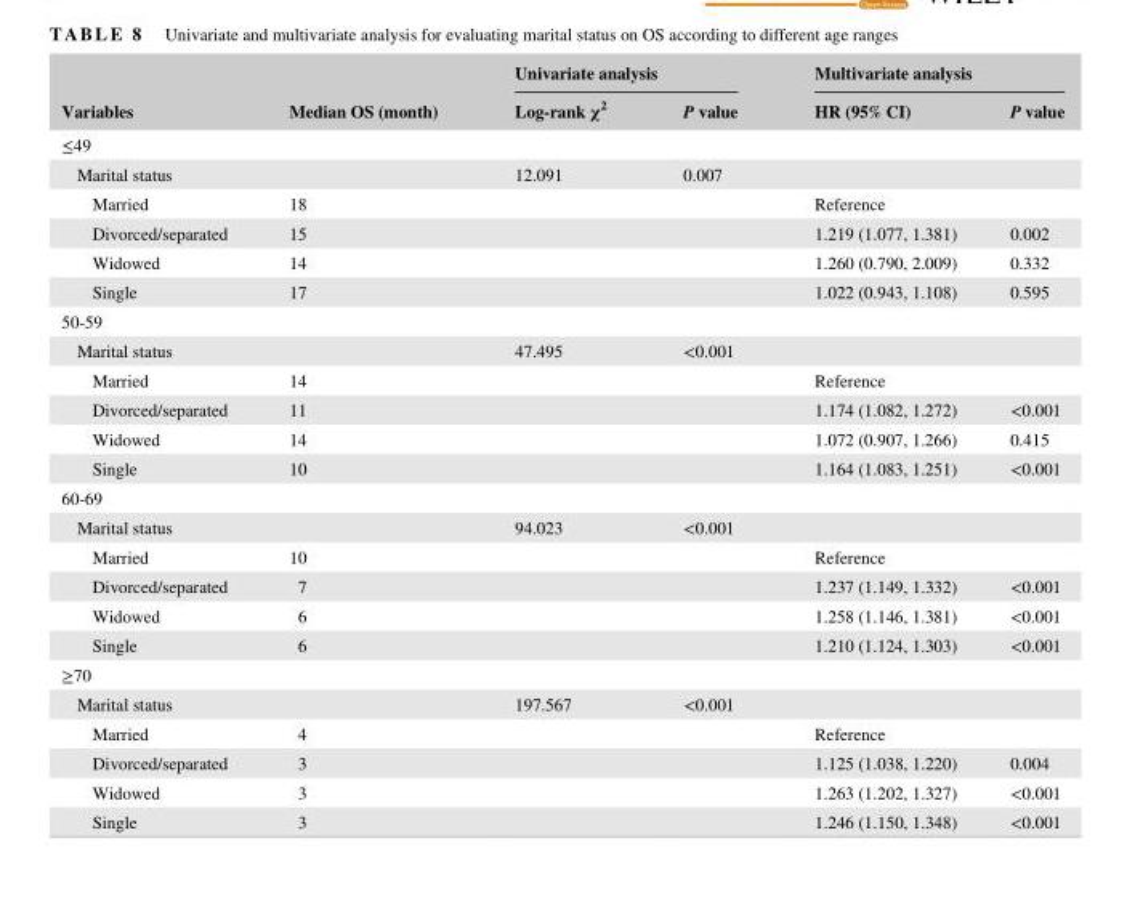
<table><thead><tr><td rowspan="2">Variables</td><td rowspan="2">Median OS (month)</td><td colspan="2">Univariate analysis</td><td colspan="2">Multivariate analysis</td></tr><tr><td>Log- rank χ<sup>2</sup></td><td>P value</td><td>HR (95% CI)</td><td>P value</td></tr></thead><tbody><tr><td colspan="6">≤49</td></tr><tr><td>Marital status</td><td></td><td>12.091</td><td>0.007</td><td></td><td></td></tr><tr><td>Married</td><td>18</td><td></td><td></td><td>Reference</td><td></td></tr><tr><td>Divorced/separated</td><td>15</td><td></td><td></td><td>1.219 (1.077, 1.381)</td><td>0.002</td></tr><tr><td>Widowed</td><td>14</td><td></td><td></td><td>1.260 (0.790, 2.009)</td><td>0.332</td></tr><tr><td>Single</td><td>17</td><td></td><td></td><td>1.022 (0.943, 1.108)</td><td>0.595</td></tr><tr><td colspan="6">50- 59</td></tr><tr><td>Marital status</td><td></td><td>47.495</td><td>&lt;0.001</td><td></td><td></td></tr><tr><td>Married</td><td>14</td><td></td><td></td><td>Reference</td><td></td></tr><tr><td>Divorced/separated</td><td>11</td><td></td><td></td><td>1.174 (1.082, 1.272)</td><td>&lt;0.001</td></tr><tr><td>Widowed</td><td>14</td><td></td><td></td><td>1.072 (0.907, 1.266)</td><td>0.415</td></tr><tr><td>Single</td><td>10</td><td></td><td></td><td>1.164 (1.083, 1.251)</td><td>&lt;0.001</td></tr><tr><td colspan="6">60- 69</td></tr><tr><td>Marital status</td><td></td><td>94.023</td><td>&lt;0.001</td><td></td><td></td></tr><tr><td>Married</td><td>10</td><td></td><td></td><td>Reference</td><td></td></tr><tr><td>Divorced/separated</td><td>7</td><td></td><td></td><td>1.237 (1.149, 1.332)</td><td>&lt;0.001</td></tr><tr><td>Widowed</td><td>6</td><td></td><td></td><td>1.258 (1.146, 1.381)</td><td>&lt;0.001</td></tr><tr><td>Single</td><td>6</td><td></td><td></td><td>1.210 (1.124, 1.303)</td><td>&lt;0.001</td></tr><tr><td colspan="6">≥70</td></tr><tr><td>Marital status</td><td></td><td>197.567</td><td>&lt;0.001</td><td></td><td></td></tr><tr><td>Married</td><td>4</td><td></td><td></td><td>Reference</td><td></td></tr><tr><td>Divorced/separated</td><td>3</td><td></td><td></td><td>1.125 (1.038, 1.220)</td><td>0.004</td></tr><tr><td>Widowed</td><td>3</td><td></td><td></td><td>1.263 (1.202, 1.327)</td><td>&lt;0.001</td></tr><tr><td>Single</td><td>3</td><td></td><td></td><td>1.246 (1.150, 1.348)</td><td>&lt;0.001</td></tr></tbody></table>